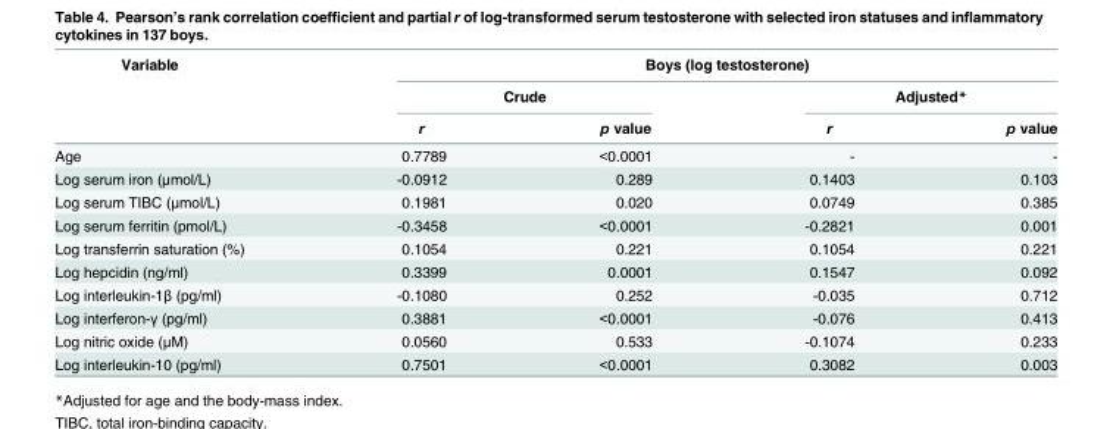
<table><thead><tr><td rowspan="3">Variable</td><td colspan="4">Boys (log testosterone)</td></tr><tr><td colspan="2">Crude</td><td colspan="2">Adjusted*</td></tr><tr><td>r</td><td>p value</td><td>r</td><td>p value</td></tr></thead><tbody><tr><td>Age</td><td>0.7789</td><td>&lt;0.0001</td><td>-</td><td>-</td></tr><tr><td>Log serum iron (μmol/L)</td><td>-0.0912</td><td>0.289</td><td>0.1403</td><td>0.103</td></tr><tr><td>Log serum TIBC (μmol/L)</td><td>0.1981</td><td>0.020</td><td>0.0749</td><td>0.385</td></tr><tr><td>Log serum ferritin (pmol/L)</td><td>-0.3458</td><td>&lt;0.0001</td><td>-0.2821</td><td>0.001</td></tr><tr><td>Log transferrin saturation (%)</td><td>0.1054</td><td>0.221</td><td>0.1054</td><td>0.221</td></tr><tr><td>Log hepcidin (ng/ml)</td><td>0.3399</td><td>0.0001</td><td>0.1547</td><td>0.092</td></tr><tr><td>Log interleukin-1β (pg/ml)</td><td>-0.1080</td><td>0.252</td><td>-0.035</td><td>0.712</td></tr><tr><td>Log interferon-γ (pg/ml)</td><td>0.3881</td><td>&lt;0.0001</td><td>-0.076</td><td>0.413</td></tr><tr><td>Log nitric oxide (μM)</td><td>0.0560</td><td>0.533</td><td>-0.1074</td><td>0.233</td></tr><tr><td>Log interleukin-10 (pg/ml)</td><td>0.7501</td><td>&lt;0.0001</td><td>0.3082</td><td>0.003</td></tr></tbody></table>